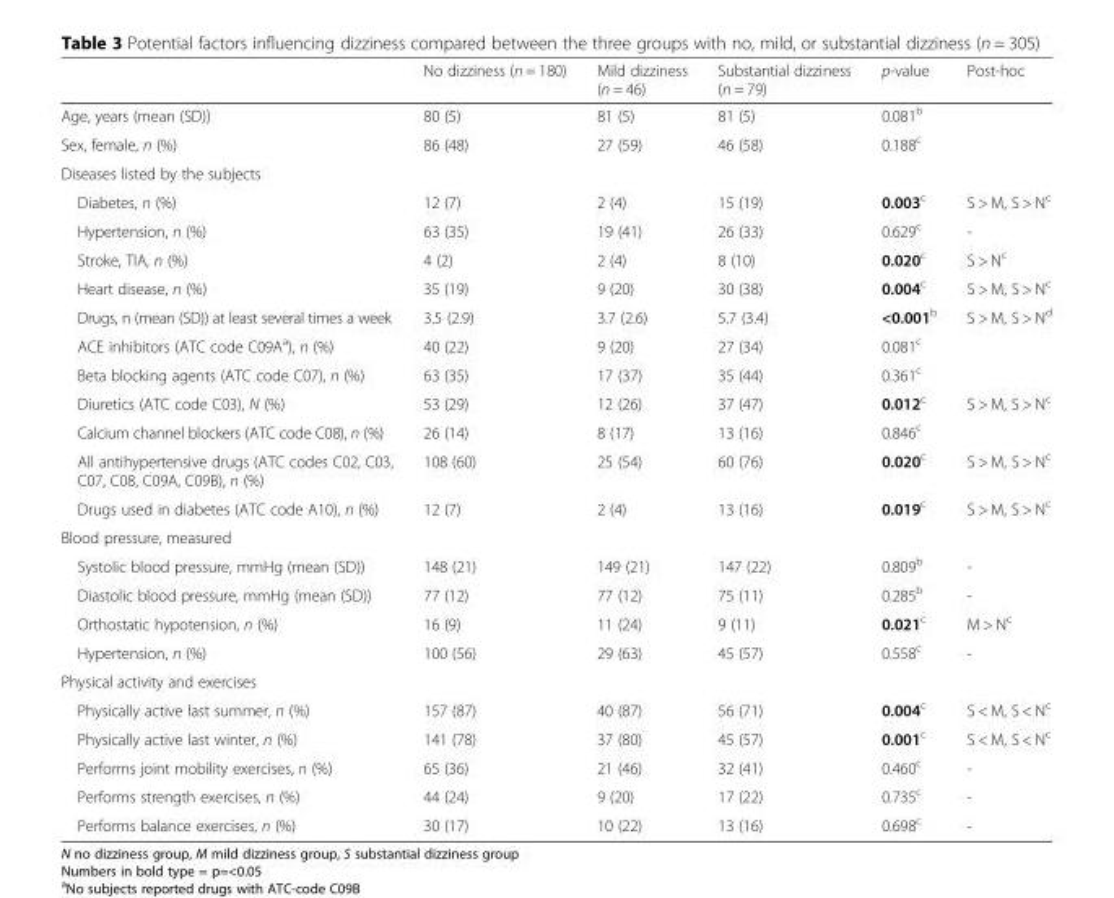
<table><thead><tr><td></td><td>No dizziness (n = 180)</td><td>Mild dizziness (n = 46)</td><td>Substantial dizziness (n = 79)</td><td>p-value</td><td>Post-hoc</td></tr></thead><tbody><tr><td>Age, years (mean (SD))</td><td>80 (5)</td><td>81 (5)</td><td>81 (5)</td><td>0.081<sup>b</sup></td><td></td></tr><tr><td>Sex, female, n (%)</td><td>86 (48)</td><td>27 (59)</td><td>46 (58)</td><td>0.188<sup>c</sup></td><td></td></tr><tr><td colspan="6">Diseases listed by the subjects</td></tr><tr><td>Diabetes, n (%)</td><td>12 (7)</td><td>2 (4)</td><td>15 (19)</td><td>0.003<sup>c</sup></td><td>S &gt; M, S &gt; N<sup>c</sup></td></tr><tr><td>Hypertension, n (%)</td><td>63 (35)</td><td>19 (41)</td><td>26 (33)</td><td>0.629<sup>c</sup></td><td>-</td></tr><tr><td>Stroke, TIA, n (%)</td><td>4 (2)</td><td>2 (4)</td><td>8 (10)</td><td>0.020<sup>c</sup></td><td>S &gt; N<sup>c</sup></td></tr><tr><td>Heart disease, n (%)</td><td>35 (19)</td><td>9 (20)</td><td>30 (38)</td><td>0.004<sup>c</sup></td><td>S &gt; M, S &gt; N<sup>c</sup></td></tr><tr><td>Drugs, n (mean (SD)) at least several times a week</td><td>3.5 (2.9)</td><td>3.7 (2.6)</td><td>5.7 (3.4)</td><td>&lt;0.001<sup>b</sup></td><td>S &gt; M, S &gt; N<sup>d</sup></td></tr><tr><td>ACE inhibitors (ATC code C09A<sup>a</sup>), n (%)</td><td>40 (22)</td><td>9 (20)</td><td>27 (34)</td><td>0.081<sup>c</sup></td><td></td></tr><tr><td>Beta blocking agents (ATC code C07), n (%)</td><td>63 (35)</td><td>17 (37)</td><td>35 (44)</td><td>0.361<sup>c</sup></td><td></td></tr><tr><td>Diuretics (ATC code C03), N (%)</td><td>53 (29)</td><td>12 (26)</td><td>37 (47)</td><td>0.012<sup>c</sup></td><td>S &gt; M, S &gt; N<sup>c</sup></td></tr><tr><td>Calcium channel blockers (ATC code C08), n (%)</td><td>26 (14)</td><td>8 (17)</td><td>13 (16)</td><td>0.846<sup>c</sup></td><td></td></tr><tr><td>All antihypertensive drugs (ATC codes C02, C03, C07, C08, C09A, C09B), n (%)</td><td>108 (60)</td><td>25 (54)</td><td>60 (76)</td><td>0.020<sup>c</sup></td><td>S &gt; M, S &gt; N<sup>c</sup></td></tr><tr><td>Drugs used in diabetes (ATC code A10), n (%)</td><td>12 (7)</td><td>2 (4)</td><td>13 (16)</td><td>0.019<sup>c</sup></td><td>S &gt; M, S &gt; N<sup>c</sup></td></tr><tr><td colspan="6">Blood pressure, measured</td></tr><tr><td>Systolic blood pressure, mmHg (mean (SD))</td><td>148 (21)</td><td>149 (21)</td><td>147 (22)</td><td>0.809<sup>b</sup></td><td>-</td></tr><tr><td>Diastolic blood pressure, mmHg (mean (SD))</td><td>77 (12)</td><td>77 (12)</td><td>75 (11)</td><td>0.285<sup>b</sup></td><td>-</td></tr><tr><td>Orthostatic hypotension, n (%)</td><td>16 (9)</td><td>11 (24)</td><td>9 (11)</td><td>0.021<sup>c</sup></td><td>M &gt; N<sup>c</sup></td></tr><tr><td>Hypertension, n (%)</td><td>100 (56)</td><td>29 (63)</td><td>45 (57)</td><td>0.558<sup>c</sup></td><td>-</td></tr><tr><td colspan="6">Physical activity and exercises</td></tr><tr><td>Physically active last summer, n (%)</td><td>157 (87)</td><td>40 (87)</td><td>56 (71)</td><td>0.004<sup>c</sup></td><td>S &lt; M, S &lt; N<sup>c</sup></td></tr><tr><td>Physically active last winter, n (%)</td><td>141 (78)</td><td>37 (80)</td><td>45 (57)</td><td>0.001<sup>c</sup></td><td>S &lt; M, S &lt; N<sup>c</sup></td></tr><tr><td>Performs joint mobility exercises, n (%)</td><td>65 (36)</td><td>21 (46)</td><td>32 (41)</td><td>0.460<sup>c</sup></td><td>-</td></tr><tr><td>Performs strength exercises, n (%)</td><td>44 (24)</td><td>9 (20)</td><td>17 (22)</td><td>0.735<sup>c</sup></td><td>-</td></tr><tr><td>Performs balance exercises, n (%)</td><td>30 (17)</td><td>10 (22)</td><td>13 (16)</td><td>0.698<sup>c</sup></td><td>-</td></tr></tbody></table>